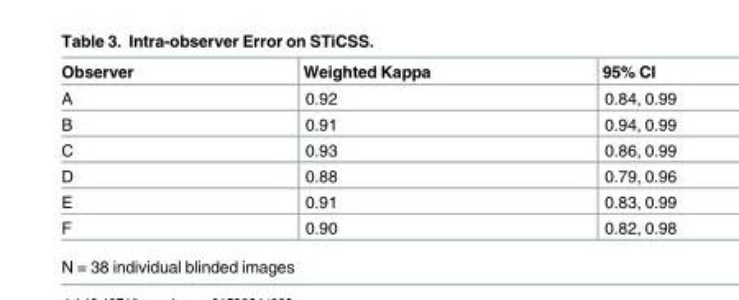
<table><thead><tr><td>Observer</td><td>Weighted Kappa</td><td>95% CI</td></tr></thead><tbody><tr><td>A</td><td>0.92</td><td>0.84, 0.99</td></tr><tr><td>B</td><td>0.91</td><td>0.94, 0.99</td></tr><tr><td>C</td><td>0.93</td><td>0.86, 0.99</td></tr><tr><td>D</td><td>0.88</td><td>0.79, 0.96</td></tr><tr><td>E</td><td>0.91</td><td>0.83, 0.99</td></tr><tr><td>F</td><td>0.90</td><td>0.82, 0.98</td></tr></tbody></table>